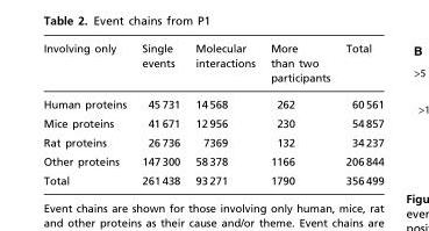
<table><thead><tr><td>Involving only</td><td>Single events</td><td>Molecular interactions</td><td>More than two participants</td><td>Total</td></tr></thead><tbody><tr><td>Human proteins</td><td>45 731</td><td>14 568</td><td>262</td><td>60 561</td></tr><tr><td>Mice proteins</td><td>41 671</td><td>12 956</td><td>230</td><td>54 857</td></tr><tr><td>Rat proteins</td><td>26 736</td><td>7369</td><td>132</td><td>34 237</td></tr><tr><td>Other proteins</td><td>147 300</td><td>58 378</td><td>1166</td><td>206 844</td></tr><tr><td>Total</td><td>261 438</td><td>93 271</td><td>1790</td><td>356 499</td></tr></tbody></table>